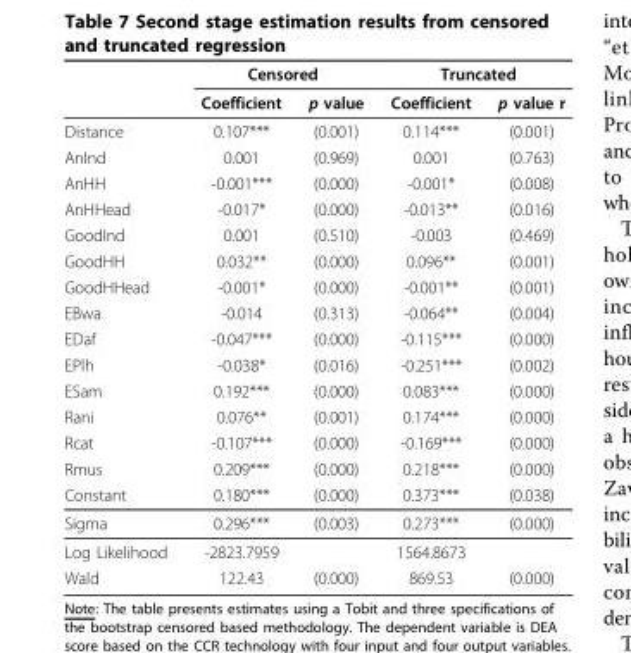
<table><thead><tr><td rowspan="2"></td><td colspan="2">Censored</td><td colspan="2">Truncated</td></tr><tr><td>Coefficient</td><td>p value</td><td>Coefficient</td><td>p value r</td></tr></thead><tbody><tr><td>Distance</td><td>0.107***</td><td>(0.001)</td><td>0.114***</td><td>(0.001)</td></tr><tr><td>AnInd</td><td>0.001</td><td>(0.969)</td><td>0.001</td><td>(0.763)</td></tr><tr><td>AnHH</td><td>-0.001***</td><td>(0.000)</td><td>-0.001*</td><td>(0.008)</td></tr><tr><td>AnHHead</td><td>-0.017*</td><td>(0.000)</td><td>-0.013**</td><td>(0.016)</td></tr><tr><td>GoodInd</td><td>0.001</td><td>(0.510)</td><td>-0.003</td><td>(0.469)</td></tr><tr><td>GoodHH</td><td>0.032**</td><td>(0.000)</td><td>0.096**</td><td>(0.001)</td></tr><tr><td>GoodHHead</td><td>-0.001*</td><td>(0.000)</td><td>-0.001**</td><td>(0.001)</td></tr><tr><td>EBwa</td><td>-0.014</td><td>(0.313)</td><td>-0.064**</td><td>(0.004)</td></tr><tr><td>EDaf</td><td>-0.047***</td><td>(0.000)</td><td>-0.115***</td><td>(0.000)</td></tr><tr><td>EPlh</td><td>-0.038*</td><td>(0.016)</td><td>-0.251***</td><td>(0.002)</td></tr><tr><td>ESam</td><td>0.192***</td><td>(0.000)</td><td>0.083***</td><td>(0.000)</td></tr><tr><td>Rani</td><td>0.076**</td><td>(0.001)</td><td>0.174***</td><td>(0.000)</td></tr><tr><td>Rcat</td><td>-0.107***</td><td>(0.000)</td><td>-0.169***</td><td>(0.000)</td></tr><tr><td>Rmus</td><td>0.209***</td><td>(0.000)</td><td>0.218***</td><td>(0.000)</td></tr><tr><td>Constant</td><td>0.180***</td><td>(0.000)</td><td>0.373***</td><td>(0.038)</td></tr><tr><td>Sigma</td><td>0.296***</td><td>(0.003)</td><td>0.273***</td><td>(0.000)</td></tr><tr><td>Log Likelihood</td><td>-2823.7959</td><td></td><td>1564.8673</td><td></td></tr><tr><td>Wald</td><td>122.43</td><td>(0.000)</td><td>869.53</td><td>(0.000)</td></tr></tbody></table>